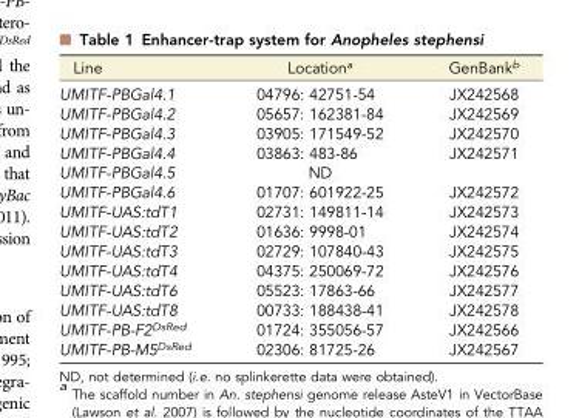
<table><thead><tr><td>Line</td><td>Location<sup>a</sup></td><td>GenBank<sup>b</sup></td></tr></thead><tbody><tr><td>UMITF-PBGal4.1</td><td>04796: 42751-54</td><td>JX242568</td></tr><tr><td>UMITF-PBGal4.2</td><td>05657: 162381-84</td><td>JX242569</td></tr><tr><td>UMITF-PBGal4.3</td><td>03905: 171549-52</td><td>JX242570</td></tr><tr><td>UMITF-PBGal4.4</td><td>03863: 483-86</td><td>JX242571</td></tr><tr><td>UMITF-PBGal4.5</td><td>ND</td><td></td></tr><tr><td>UMITF-PBGal4.6</td><td>01707: 601922-25</td><td>JX242572</td></tr><tr><td>UMITF-UAS:tdT1</td><td>02731: 149811-14</td><td>JX242573</td></tr><tr><td>UMITF-UAS:tdT2</td><td>01636: 9998-01</td><td>JX242574</td></tr><tr><td>UMITF-UAS:tdT3</td><td>02729: 107840-43</td><td>JX242575</td></tr><tr><td>UMITF-UAS:tdT4</td><td>04375: 250069-72</td><td>JX242576</td></tr><tr><td>UMITF-UAS:tdT6</td><td>05523: 17863-66</td><td>JX242577</td></tr><tr><td>UMITF-UAS:tdT8</td><td>00733: 188438-41</td><td>JX242578</td></tr><tr><td>UMITF-PB-F2<sup>DsRed</sup></td><td>01724: 355056-57</td><td>JX242566</td></tr><tr><td>UMITF-PB-M5<sup>DsRed</sup></td><td>02306: 81725-26</td><td>JX242567</td></tr></tbody></table>